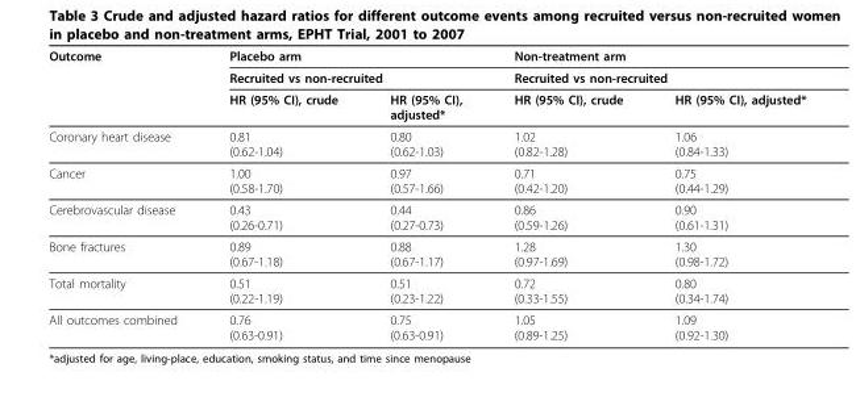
<table><thead><tr><td rowspan="3">Outcome</td><td rowspan="2" colspan="2">Placebo arm Recruited vs non-recruited</td><td rowspan="2" colspan="2">Non-treatment arm Recruited vs non-recruited</td></tr><tr></tr><tr><td>HR (95% CI), crude</td><td>HR (95% CI), adjusted*</td><td>HR (95% CI), crude</td><td>HR (95% CI), adjusted*</td></tr></thead><tbody><tr><td>Coronary heart disease</td><td>0.81 (0.62-1.04)</td><td>0.80 (0.62-1.03)</td><td>1.02 (0.82-1.28)</td><td>1.06 (0.84-1.33)</td></tr><tr><td>Cancer</td><td>1.00 (0.58-1.70)</td><td>0.97 (0.57-1.66)</td><td>0.71 (0.42-1.20)</td><td>0.75 (0.44-1.29)</td></tr><tr><td>Cerebrovascular disease</td><td>0.43 (0.26-0.71)</td><td>0.44 (0.27-0.73)</td><td>0.86 (0.59-1.26)</td><td>0.90 (0.61-1.31)</td></tr><tr><td>Bone fractures</td><td>0.89 (0.67-1.18)</td><td>0.88 (0.67-1.17)</td><td>1.28 (0.97-1.69)</td><td>1.30 (0.98-1.72)</td></tr><tr><td>Total mortality</td><td>0.51 (0.22-1.19)</td><td>0.51 (0.23-1.22)</td><td>0.72 (0.33-1.55)</td><td>0.80 (0.34-1.74)</td></tr><tr><td>All outcomes combined</td><td>0.76 (0.63-0.91)</td><td>0.75 (0.63-0.91)</td><td>1.05 (0.89-1.25)</td><td>1.09 (0.92-1.30)</td></tr></tbody></table>